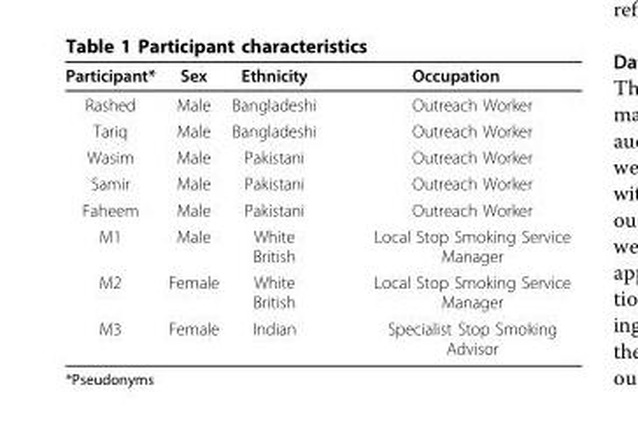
<table><thead><tr><td>Participant*</td><td>Sex</td><td>Ethnicity</td><td>Occupation</td></tr></thead><tbody><tr><td>Rashed</td><td>Male</td><td>Bangladeshi</td><td>Outreach Worker</td></tr><tr><td>Tariq</td><td>Male</td><td>Bangladeshi</td><td>Outreach Worker</td></tr><tr><td>Wasim</td><td>Male</td><td>Pakistani</td><td>Outreach Worker</td></tr><tr><td>Samir</td><td>Male</td><td>Pakistani</td><td>Outreach Worker</td></tr><tr><td>Faheem</td><td>Male</td><td>Pakistani</td><td>Outreach Worker</td></tr><tr><td>M1</td><td>Male</td><td>White British</td><td>Local Stop Smoking Service Manager</td></tr><tr><td>M2</td><td>Female</td><td>White British</td><td>Local Stop Smoking Service Manager</td></tr><tr><td>M3</td><td>Female</td><td>Indian</td><td>Specialist Stop Smoking Advisor</td></tr></tbody></table>